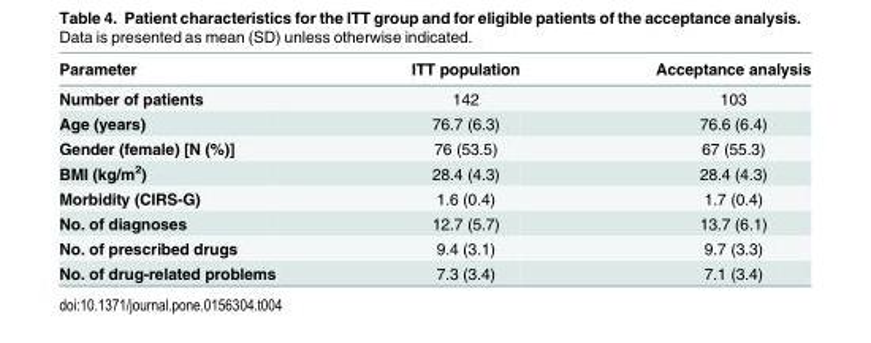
<table><thead><tr><td>Parameter</td><td>ITT population</td><td>Acceptance analysis</td></tr></thead><tbody><tr><td>Number of patients</td><td>142</td><td>103</td></tr><tr><td>Age (years)</td><td>76.7 (6.3)</td><td>76.6 (6.4)</td></tr><tr><td>Gender (female) [N (%)]</td><td>76 (53.5)</td><td>67 (55.3)</td></tr><tr><td>BMI (kg/m<sup>2</sup>)</td><td>28.4 (4.3)</td><td>28.4 (4.3)</td></tr><tr><td>Morbidity (CIRS-G)</td><td>1.6 (0.4)</td><td>1.7 (0.4)</td></tr><tr><td>No. of diagnoses</td><td>12.7 (5.7)</td><td>13.7 (6.1)</td></tr><tr><td>No. of prescribed drugs</td><td>9.4 (3.1)</td><td>9.7 (3.3)</td></tr><tr><td>No. of drug-related problems</td><td>7.3 (3.4)</td><td>7.1 (3.4)</td></tr></tbody></table>